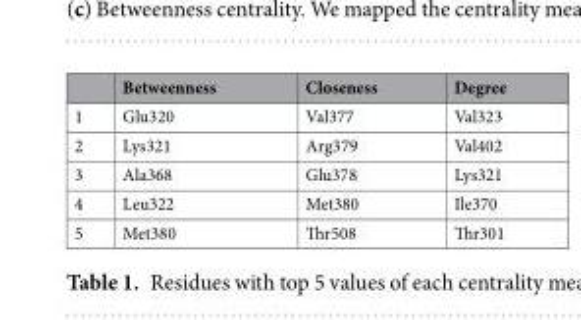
<table><thead><tr><td></td><td>Betweenness</td><td>Closeness</td><td>Degree</td></tr></thead><tbody><tr><td>1</td><td>Glu320</td><td>Val377</td><td>Val323</td></tr><tr><td>2</td><td>Lys321</td><td>Arg379</td><td>Val402</td></tr><tr><td>3</td><td>Ala368</td><td>Glu378</td><td>Lys321</td></tr><tr><td>4</td><td>Leu322</td><td>Met380</td><td>Ile370</td></tr><tr><td>5</td><td>Met380</td><td>Thr508</td><td>Thr301</td></tr></tbody></table>